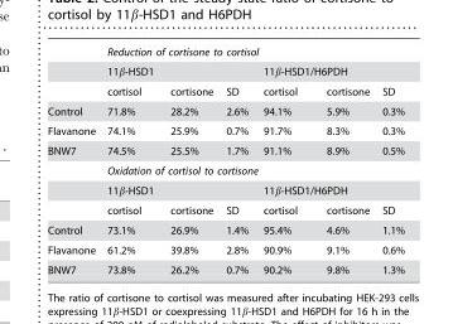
<table><thead><tr><td rowspan="3"></td><td colspan="6">Reduction of cortisone to cortisol</td></tr><tr><td colspan="3">11β-HSD1</td><td colspan="3">11β-HSD1/H6PDH</td></tr><tr><td>cortisol</td><td>cortisone</td><td>SD</td><td>cortisol</td><td>cortisone</td><td>SD</td></tr></thead><tbody><tr><td>Control</td><td>71.8%</td><td>28.2%</td><td>2.6%</td><td>94.1%</td><td>5.9%</td><td>0.3%</td></tr><tr><td>Flavanone</td><td>74.1%</td><td>25.9%</td><td>0.7%</td><td>91.7%</td><td>8.3%</td><td>0.3%</td></tr><tr><td rowspan="4">BNW7</td><td>74.5%</td><td>25.5%</td><td>1.7%</td><td>91.1%</td><td>8.9%</td><td>0.5%</td></tr><tr><td colspan="6">Oxidation of cortisol to cortisone</td></tr><tr><td colspan="3">11β-HSD1</td><td colspan="3">11β-HSD1/H6PDH</td></tr><tr><td>cortisol</td><td>cortisone</td><td>SD</td><td>cortisol</td><td>cortisone</td><td>SD</td></tr><tr><td>Control</td><td>73.1%</td><td>26.9%</td><td>1.4%</td><td>95.4%</td><td>4.6%</td><td>1.1%</td></tr><tr><td>Flavanone</td><td>61.2%</td><td>39.8%</td><td>2.8%</td><td>90.9%</td><td>9.1%</td><td>0.6%</td></tr><tr><td>BNW7</td><td>73.8%</td><td>26.2%</td><td>0.7%</td><td>90.2%</td><td>9.8%</td><td>1.3%</td></tr></tbody></table>